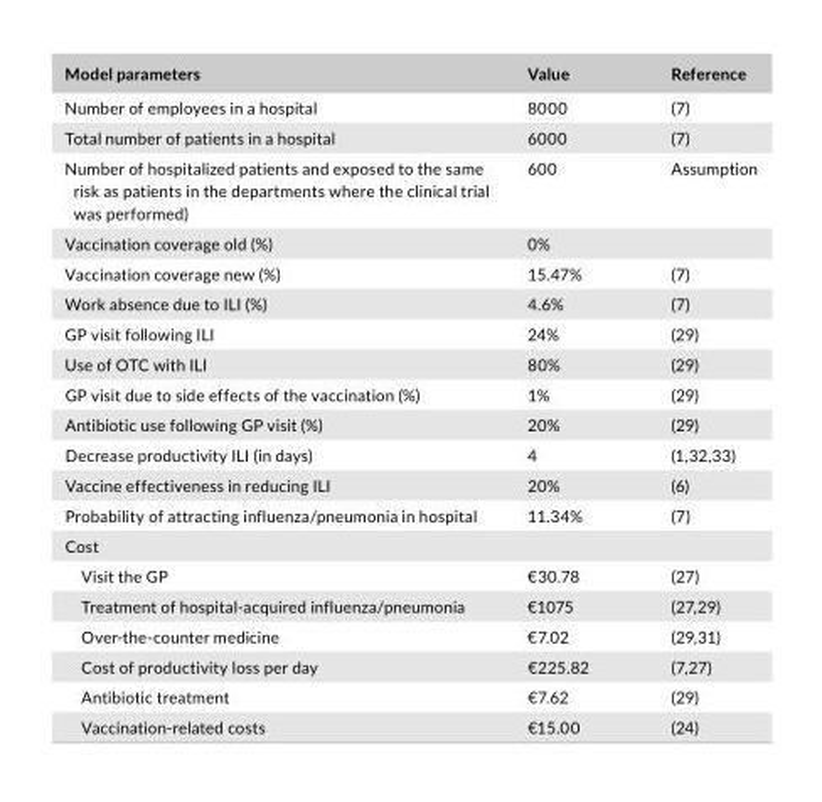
<table><thead><tr><td>Model parameters</td><td>Value</td><td>Reference</td></tr></thead><tbody><tr><td>Number of employees in a hospital</td><td>8000</td><td>(7)</td></tr><tr><td>Total number of patients in a hospital</td><td>6000</td><td>(7)</td></tr><tr><td>Number of hospitalized patients and exposed to the same risk as patients in the departments where the clinical trial was performed)</td><td>600</td><td>Assumption</td></tr><tr><td>Vaccination coverage old (%)</td><td>0%</td><td></td></tr><tr><td>Vaccination coverage new (%)</td><td>15.47%</td><td>(7)</td></tr><tr><td>Work absence due to ILI (%)</td><td>4.6%</td><td>(7)</td></tr><tr><td>GP visit following ILI</td><td>24%</td><td>(29)</td></tr><tr><td>Use of OTC with ILI</td><td>80%</td><td>(29)</td></tr><tr><td>GP visit due to side effects of the vaccination (%)</td><td>1%</td><td>(29)</td></tr><tr><td>Antibiotic use following GP visit (%)</td><td>20%</td><td>(29)</td></tr><tr><td>Decrease productivity ILI (in days)</td><td>4</td><td>(1,32,33)</td></tr><tr><td>Vaccine effectiveness in reducing ILI</td><td>20%</td><td>(6)</td></tr><tr><td>Probability of attracting influenza/pneumonia in hospital</td><td>11.34%</td><td>(7)</td></tr><tr><td colspan="3">Cost</td></tr><tr><td>Visit the GP</td><td>€30.78</td><td>(27)</td></tr><tr><td>Treatment of hospital- acquired influenza/pneumonia</td><td>€1075</td><td>(27,29)</td></tr><tr><td>Over- the- counter medicine</td><td>€7.02</td><td>(29,31)</td></tr><tr><td>Cost of productivity loss per day</td><td>€225.82</td><td>(7,27)</td></tr><tr><td>Antibiotic treatment</td><td>€7.62</td><td>(29)</td></tr><tr><td>Vaccination- related costs</td><td>€15.00</td><td>(24)</td></tr></tbody></table>